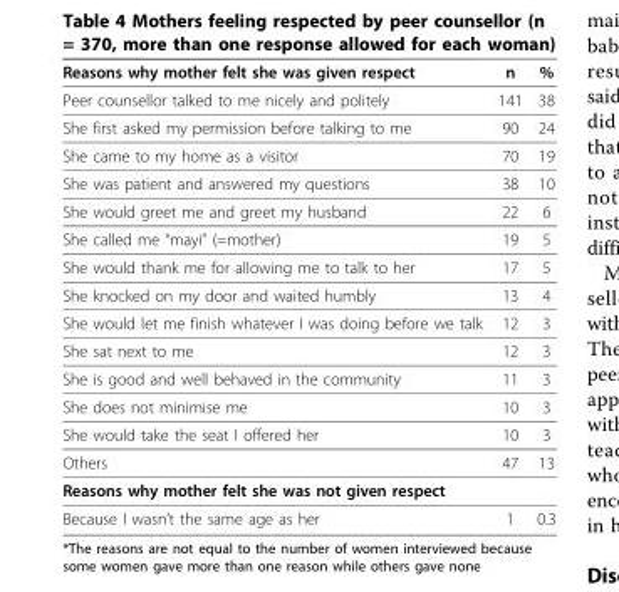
<table><thead><tr><td>Reasons why mother felt she was given respect</td><td>n</td><td>%</td></tr></thead><tbody><tr><td>Peer counsellor talked to me nicely and politely</td><td>141</td><td>38</td></tr><tr><td>She first asked my permission before talking to me</td><td>90</td><td>24</td></tr><tr><td>She came to my home as a visitor</td><td>70</td><td>19</td></tr><tr><td>She was patient and answered my questions</td><td>38</td><td>10</td></tr><tr><td>She would greet me and greet my husband</td><td>22</td><td>6</td></tr><tr><td>She called me “mayi” (=mother)</td><td>19</td><td>5</td></tr><tr><td>She would thank me for allowing me to talk to her</td><td>17</td><td>5</td></tr><tr><td>She knocked on my door and waited humbly</td><td>13</td><td>4</td></tr><tr><td>She would let me finish whatever I was doing before we talk</td><td>12</td><td>3</td></tr><tr><td>She sat next to me</td><td>12</td><td>3</td></tr><tr><td>She is good and well behaved in the community</td><td>11</td><td>3</td></tr><tr><td>She does not minimise me</td><td>10</td><td>3</td></tr><tr><td>She would take the seat I offered her</td><td>10</td><td>3</td></tr><tr><td>Others</td><td>47</td><td>13</td></tr><tr><td colspan="3">Reasons why mother felt she was not given respect</td></tr><tr><td>Because I wasn’t the same age as her</td><td>1</td><td>0.3</td></tr></tbody></table>